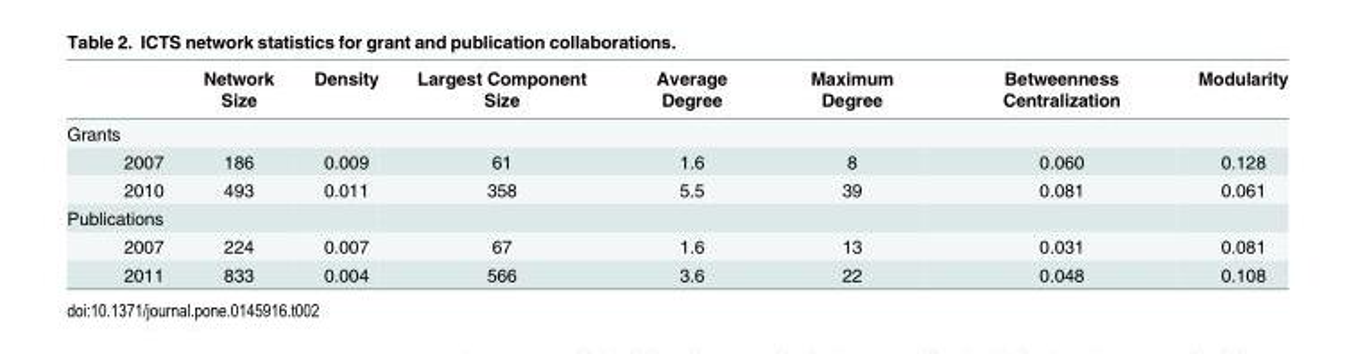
<table><thead><tr><td></td><td>Network Size</td><td>Density</td><td>Largest Component Size</td><td>Average Degree</td><td>Maximum Degree</td><td>Betweenness Centralization</td><td>Modularity</td></tr></thead><tbody><tr><td colspan="8">Grants</td></tr><tr><td>2007</td><td>186</td><td>0.009</td><td>61</td><td>1.6</td><td>8</td><td>0.060</td><td>0.128</td></tr><tr><td>2010</td><td>493</td><td>0.011</td><td>358</td><td>5.5</td><td>39</td><td>0.081</td><td>0.061</td></tr><tr><td colspan="8">Publications</td></tr><tr><td>2007</td><td>224</td><td>0.007</td><td>67</td><td>1.6</td><td>13</td><td>0.031</td><td>0.081</td></tr><tr><td>2011</td><td>833</td><td>0.004</td><td>566</td><td>3.6</td><td>22</td><td>0.048</td><td>0.108</td></tr></tbody></table>